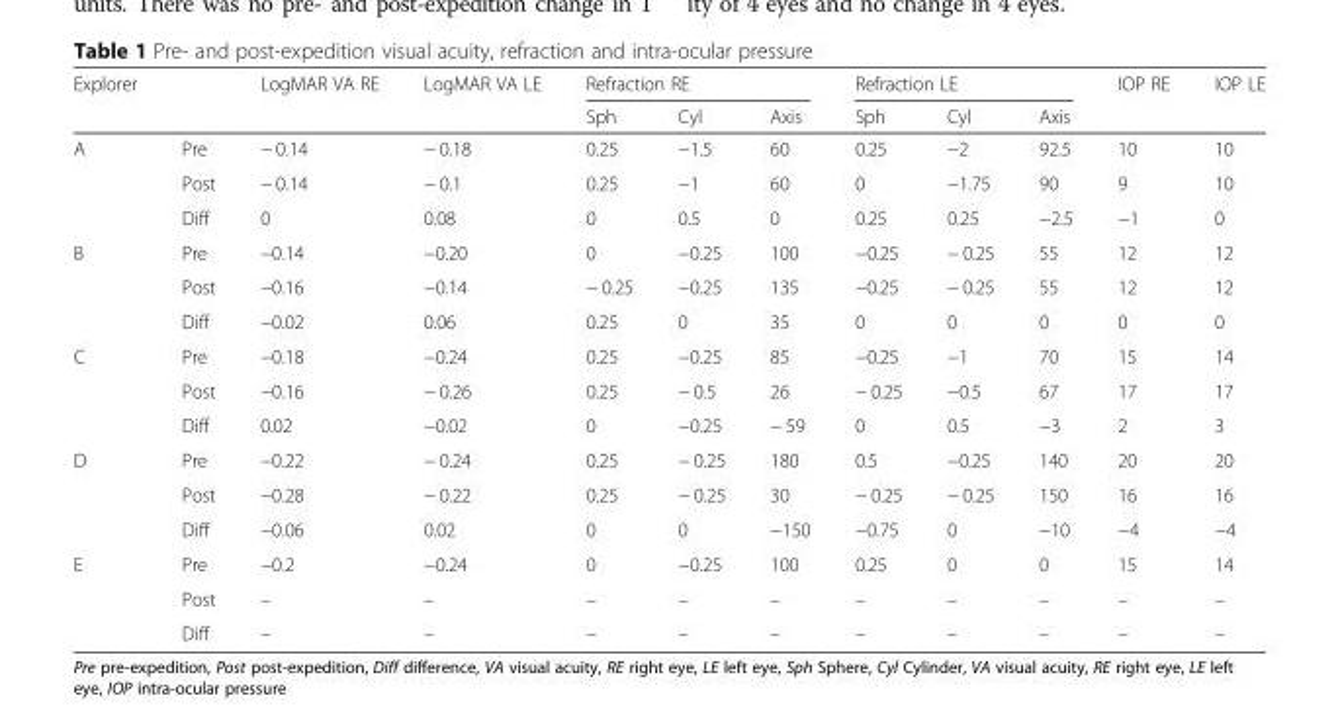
<table><thead><tr><td rowspan="2">Explorer</td><td rowspan="2"></td><td rowspan="2">LogMAR VA RE</td><td rowspan="2">LogMAR VA LE</td><td colspan="3">Refraction RE</td><td colspan="3">Refraction LE</td><td rowspan="2">IOP RE</td><td rowspan="2">IOP LE</td></tr><tr><td>Sph</td><td>Cyl</td><td>Axis</td><td>Sph</td><td>Cyl</td><td>Axis</td></tr></thead><tbody><tr><td rowspan="3">A</td><td>Pre</td><td>− 0.14</td><td>− 0.18</td><td>0.25</td><td>−1.5</td><td>60</td><td>0.25</td><td>−2</td><td>92.5</td><td>10</td><td>10</td></tr><tr><td>Post</td><td>− 0.14</td><td>− 0.1</td><td>0.25</td><td>−1</td><td>60</td><td>0</td><td>−1.75</td><td>90</td><td>9</td><td>10</td></tr><tr><td>Diff</td><td>0</td><td>0.08</td><td>0</td><td>0.5</td><td>0</td><td>0.25</td><td>0.25</td><td>−2.5</td><td>−1</td><td>0</td></tr><tr><td rowspan="3">B</td><td>Pre</td><td>−0.14</td><td>−0.20</td><td>0</td><td>−0.25</td><td>100</td><td>−0.25</td><td>− 0.25</td><td>55</td><td>12</td><td>12</td></tr><tr><td>Post</td><td>−0.16</td><td>−0.14</td><td>− 0.25</td><td>−0.25</td><td>135</td><td>−0.25</td><td>− 0.25</td><td>55</td><td>12</td><td>12</td></tr><tr><td>Diff</td><td>−0.02</td><td>0.06</td><td>0.25</td><td>0</td><td>35</td><td>0</td><td>0</td><td>0</td><td>0</td><td>0</td></tr><tr><td rowspan="3">C</td><td>Pre</td><td>−0.18</td><td>−0.24</td><td>0.25</td><td>−0.25</td><td>85</td><td>−0.25</td><td>−1</td><td>70</td><td>15</td><td>14</td></tr><tr><td>Post</td><td>−0.16</td><td>− 0.26</td><td>0.25</td><td>− 0.5</td><td>26</td><td>− 0.25</td><td>−0.5</td><td>67</td><td>17</td><td>17</td></tr><tr><td>Diff</td><td>0.02</td><td>−0.02</td><td>0</td><td>−0.25</td><td>− 59</td><td>0</td><td>0.5</td><td>−3</td><td>2</td><td>3</td></tr><tr><td rowspan="3">D</td><td>Pre</td><td>−0.22</td><td>− 0.24</td><td>0.25</td><td>− 0.25</td><td>180</td><td>0.5</td><td>−0.25</td><td>140</td><td>20</td><td>20</td></tr><tr><td>Post</td><td>−0.28</td><td>− 0.22</td><td>0.25</td><td>− 0.25</td><td>30</td><td>− 0.25</td><td>− 0.25</td><td>150</td><td>16</td><td>16</td></tr><tr><td>Diff</td><td>−0.06</td><td>0.02</td><td>0</td><td>0</td><td>−150</td><td>−0.75</td><td>0</td><td>−10</td><td>−4</td><td>−4</td></tr><tr><td rowspan="3">E</td><td>Pre</td><td>−0.2</td><td>−0.24</td><td>0</td><td>−0.25</td><td>100</td><td>0.25</td><td>0</td><td>0</td><td>15</td><td>14</td></tr><tr><td>Post</td><td>–</td><td>–</td><td>–</td><td>–</td><td>–</td><td>–</td><td>–</td><td>–</td><td>–</td><td>–</td></tr><tr><td>Diff</td><td>–</td><td>–</td><td>–</td><td>–</td><td>–</td><td>–</td><td>–</td><td>–</td><td>–</td><td>–</td></tr></tbody></table>